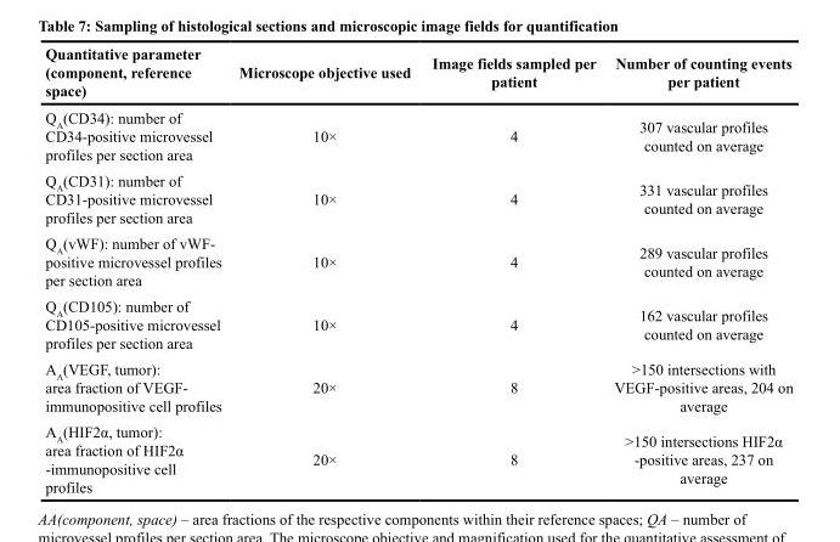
<table><thead><tr><td>Quantitative parameter (component, reference space)</td><td>Microscope objective used</td><td>Image fields sampled per patient</td><td>Number of counting events per patient</td></tr></thead><tbody><tr><td>Q<sub>A</sub>(CD34): number of CD34-positive microvessel profiles per section area</td><td>10×</td><td>4</td><td>307 vascular profiles counted on average</td></tr><tr><td>Q<sub>A</sub>(CD31): number of CD31-positive microvessel profiles per section area</td><td>10×</td><td>4</td><td>331 vascular profiles counted on average</td></tr><tr><td>Q<sub>A</sub>(vWF): number of vWF- positive microvessel profiles per section area</td><td>10×</td><td>4</td><td>289 vascular profiles counted on average</td></tr><tr><td>Q<sub>A</sub>(CD105): number of CD105-positive microvessel profiles per section area</td><td>10×</td><td>4</td><td>162 vascular profiles counted on average</td></tr><tr><td>A<sub>A</sub>(VEGF, tumor): area fraction of VEGF- immunopositive cell profiles</td><td>20×</td><td>8</td><td>&gt;150 intersections with VEGF-positive areas, 204 on average</td></tr><tr><td>A<sub>A</sub>(HIF2α, tumor): area fraction of HIF2α -immunopositive cell profiles</td><td>20×</td><td>8</td><td>&gt;150 intersections HIF2α -positive areas, 237 on average</td></tr></tbody></table>